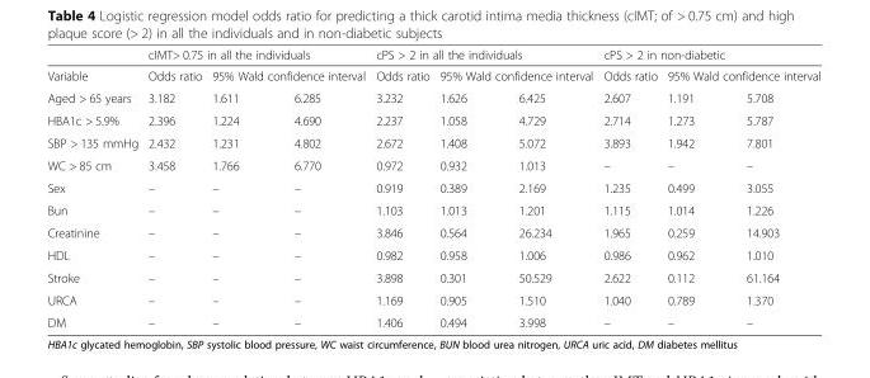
<table><thead><tr><td rowspan="3">Variable Aged &gt; 65 years</td><td colspan="3">cIMT&gt; 0.75 in all the individuals</td><td colspan="3">cPS &gt; 2 in all the individuals</td><td colspan="3">cPS &gt; 2 in non-diabetic</td></tr><tr><td rowspan="2">Odds ratio 3.182</td><td colspan="2">95% Wald confidence interval</td><td rowspan="2">Odds ratio 3.232</td><td colspan="2">95% Wald confidence interval</td><td rowspan="2">Odds ratio 2.607</td><td colspan="2">95% Wald confidence interval</td></tr><tr><td>1.611</td><td>6.285</td><td>1.626</td><td>6.425</td><td>1.191</td><td>5.708</td></tr></thead><tbody><tr><td>HBA1c &gt; 5.9%</td><td>2.396</td><td>1.224</td><td>4.690</td><td>2.237</td><td>1.058</td><td>4.729</td><td>2.714</td><td>1.273</td><td>5.787</td></tr><tr><td>SBP &gt; 135 mmHg</td><td>2.432</td><td>1.231</td><td>4.802</td><td>2.672</td><td>1.408</td><td>5.072</td><td>3.893</td><td>1.942</td><td>7.801</td></tr><tr><td>WC &gt; 85 cm</td><td>3.458</td><td>1.766</td><td>6.770</td><td>0.972</td><td>0.932</td><td>1.013</td><td>–</td><td>–</td><td>–</td></tr><tr><td>Sex</td><td>–</td><td>–</td><td>–</td><td>0.919</td><td>0.389</td><td>2.169</td><td>1.235</td><td>0.499</td><td>3.055</td></tr><tr><td>Bun</td><td>–</td><td>–</td><td>–</td><td>1.103</td><td>1.013</td><td>1.201</td><td>1.115</td><td>1.014</td><td>1.226</td></tr><tr><td>Creatinine</td><td>–</td><td>–</td><td>–</td><td>3.846</td><td>0.564</td><td>26.234</td><td>1.965</td><td>0.259</td><td>14.903</td></tr><tr><td>HDL</td><td>–</td><td>–</td><td>–</td><td>0.982</td><td>0.958</td><td>1.006</td><td>0.986</td><td>0.962</td><td>1.010</td></tr><tr><td>Stroke</td><td>–</td><td>–</td><td>–</td><td>3.898</td><td>0.301</td><td>50.529</td><td>2.622</td><td>0.112</td><td>61.164</td></tr><tr><td>URCA</td><td>–</td><td>–</td><td>–</td><td>1.169</td><td>0.905</td><td>1.510</td><td>1.040</td><td>0.789</td><td>1.370</td></tr><tr><td>DM</td><td>–</td><td>–</td><td>–</td><td>1.406</td><td>0.494</td><td>3.998</td><td>–</td><td>–</td><td>–</td></tr></tbody></table>